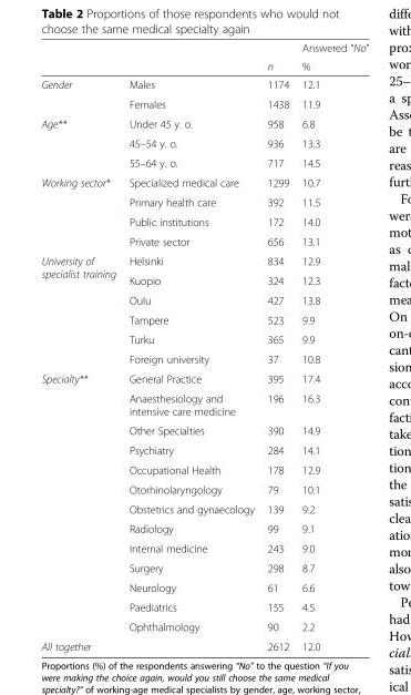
<table><thead><tr><td rowspan="2"></td><td rowspan="2"></td><td rowspan="2">n</td><td rowspan="2">Answered “No” %</td></tr><tr></tr></thead><tbody><tr><td rowspan="2">Gender</td><td>Males</td><td>1174</td><td>12.1</td></tr><tr><td>Females</td><td>1438</td><td>11.9</td></tr><tr><td rowspan="3">Age**</td><td>Under 45 y. o.</td><td>958</td><td>6.8</td></tr><tr><td>45–54 y. o.</td><td>936</td><td>13.3</td></tr><tr><td>55–64 y. o.</td><td>717</td><td>14.5</td></tr><tr><td rowspan="4">Working sector*</td><td>Specialized medical care</td><td>1299</td><td>10.7</td></tr><tr><td>Primary health care</td><td>392</td><td>11.5</td></tr><tr><td>Public institutions</td><td>172</td><td>14.0</td></tr><tr><td>Private sector</td><td>656</td><td>13.1</td></tr><tr><td rowspan="6">University of specialist training</td><td>Helsinki</td><td>834</td><td>12.9</td></tr><tr><td>Kuopio</td><td>324</td><td>12.3</td></tr><tr><td>Oulu</td><td>427</td><td>13.8</td></tr><tr><td>Tampere</td><td>523</td><td>9.9</td></tr><tr><td>Turku</td><td>365</td><td>9.9</td></tr><tr><td>Foreign university</td><td>37</td><td>10.8</td></tr><tr><td rowspan="13">Specialty**</td><td>General Practice</td><td>395</td><td>17.4</td></tr><tr><td>Anaesthesiology and intensive care medicine</td><td>196</td><td>16.3</td></tr><tr><td>Other Specialties</td><td>390</td><td>14.9</td></tr><tr><td>Psychiatry</td><td>284</td><td>14.1</td></tr><tr><td>Occupational Health</td><td>178</td><td>12.9</td></tr><tr><td>Otorhinolaryngology</td><td>79</td><td>10.1</td></tr><tr><td>Obstetrics and gynaecology</td><td>139</td><td>9.2</td></tr><tr><td>Radiology</td><td>99</td><td>9.1</td></tr><tr><td>Internal medicine</td><td>243</td><td>9.0</td></tr><tr><td>Surgery</td><td>298</td><td>8.7</td></tr><tr><td>Neurology</td><td>61</td><td>6.6</td></tr><tr><td>Paediatrics</td><td>155</td><td>4.5</td></tr><tr><td>Ophthalmology</td><td>90</td><td>2.2</td></tr><tr><td>All together</td><td></td><td>2612</td><td>12.0</td></tr></tbody></table>